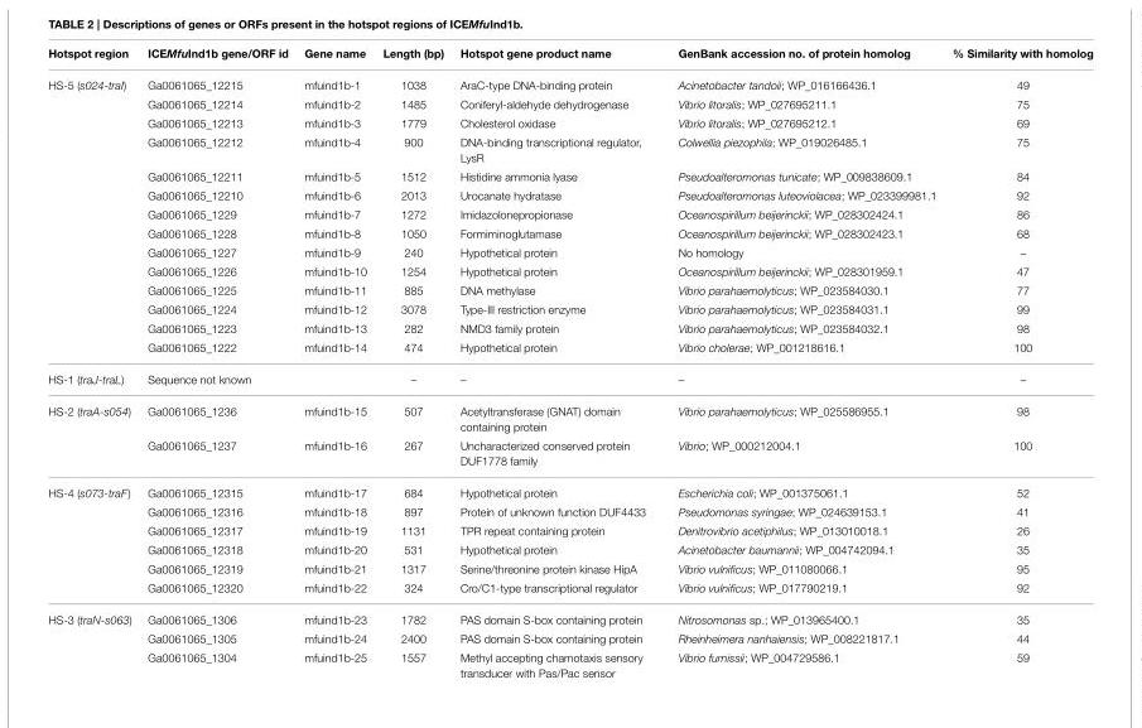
<table><thead><tr><td>Hotspot region</td><td>ICEMfuInd1b gene/ORF id</td><td>Gene name</td><td>Length (bp)</td><td>Hotspot gene product name</td><td>GenBank accession no. of protein homolog</td><td>% Similarity with homolog</td></tr></thead><tbody><tr><td rowspan="14">HS-5 (s024-traI)</td><td>Ga0061065_12215</td><td>mfuind1b-1</td><td>1038</td><td>AraC-type DNA-binding protein</td><td>Acinetobacter tandoii; WP_016166436.1</td><td>49</td></tr><tr><td>Ga0061065_12214</td><td>mfuind1b-2</td><td>1485</td><td>Coniferyl-aldehyde dehydrogenase</td><td>Vibrio litoralis; WP_027695211.1</td><td>75</td></tr><tr><td>Ga0061065_12213</td><td>mfuind1b-3</td><td>1779</td><td>Cholesterol oxidase</td><td>Vibrio litoralis; WP_027695212.1</td><td>69</td></tr><tr><td>Ga0061065_12212</td><td>mfuind1b-4</td><td>900</td><td>DNA-binding transcriptional regulator, LysR</td><td>Colwellia piezophila; WP_019026485.1</td><td>75</td></tr><tr><td>Ga0061065_12211</td><td>mfuind1b-5</td><td>1512</td><td>Histidine ammonia lyase</td><td>Pseudoalteromonas tunicate; WP_009838609.1</td><td>84</td></tr><tr><td>Ga0061065_12210</td><td>mfuind1b-6</td><td>2013</td><td>Urocanate hydratase</td><td>Pseudoalteromonas luteoviolacea; WP_023399981.1</td><td>92</td></tr><tr><td>Ga0061065_1229</td><td>mfuind1b-7</td><td>1272</td><td>Imidazolonepropionase</td><td>Oceanospirillum beijerinckii; WP_028302424.1</td><td>86</td></tr><tr><td>Ga0061065_1228</td><td>mfuind1b-8</td><td>1050</td><td>Formiminoglutamase</td><td>Oceanospirillum beijerinckii; WP_028302423.1</td><td>68</td></tr><tr><td>Ga0061065_1227</td><td>mfuind1b-9</td><td>240</td><td>Hypothetical protein</td><td>No homology</td><td>–</td></tr><tr><td>Ga0061065_1226</td><td>mfuind1b-10</td><td>1254</td><td>Hypothetical protein</td><td>Oceanospirillum beijerinckii; WP_028301959.1</td><td>47</td></tr><tr><td>Ga0061065_1225</td><td>mfuind1b-11</td><td>885</td><td>DNA methylase</td><td>Vibrio parahaemolyticus; WP_023584030.1</td><td>77</td></tr><tr><td>Ga0061065_1224</td><td>mfuind1b-12</td><td>3078</td><td>Type-III restriction enzyme</td><td>Vibrio parahaemolyticus; WP_023584031.1</td><td>99</td></tr><tr><td>Ga0061065_1223</td><td>mfuind1b-13</td><td>282</td><td>NMD3 family protein</td><td>Vibrio parahaemolyticus; WP_023584032.1</td><td>98</td></tr><tr><td>Ga0061065_1222</td><td>mfuind1b-14</td><td>474</td><td>Hypothetical protein</td><td>Vibrio cholerae; WP_001218616.1</td><td>100</td></tr><tr><td>HS-1 (traJ-traL)</td><td>Sequence not known</td><td></td><td>–</td><td>–</td><td>–</td><td>–</td></tr><tr><td rowspan="2">HS-2 (traA-s054)</td><td>Ga0061065_1236</td><td>mfuind1b-15</td><td>507</td><td>Acetyltransferase (GNAT) domain containing protein</td><td>Vibrio parahaemolyticus; WP_025586955.1</td><td>98</td></tr><tr><td>Ga0061065_1237</td><td>mfuind1b-16</td><td>267</td><td>Uncharacterized conserved protein DUF1778 family</td><td>Vibrio; WP_000212004.1</td><td>100</td></tr><tr><td rowspan="6">HS-4 (s073-traF)</td><td>Ga0061065_12315</td><td>mfuind1b-17</td><td>684</td><td>Hypothetical protein</td><td>Escherichia coli; WP_001375061.1</td><td>52</td></tr><tr><td>Ga0061065_12316</td><td>mfuind1b-18</td><td>897</td><td>Protein of unknown function DUF4433</td><td>Pseudomonas syringae; WP_024639153.1</td><td>41</td></tr><tr><td>Ga0061065_12317</td><td>mfuind1b-19</td><td>1131</td><td>TPR repeat containing protein</td><td>Denitrovibrio acetiphilus; WP_013010018.1</td><td>26</td></tr><tr><td>Ga0061065_12318</td><td>mfuind1b-20</td><td>531</td><td>Hypothetical protein</td><td>Acinetobacter baumannii; WP_004742094.1</td><td>35</td></tr><tr><td>Ga0061065_12319</td><td>mfuind1b-21</td><td>1317</td><td>Serine/threonine protein kinase HipA</td><td>Vibrio vulnificus; WP_011080066.1</td><td>95</td></tr><tr><td>Ga0061065_12320</td><td>mfuind1b-22</td><td>324</td><td>Cro/C1-type transcriptional regulator</td><td>Vibrio vulnificus; WP_017790219.1</td><td>92</td></tr><tr><td rowspan="3">HS-3 (traN-s063)</td><td>Ga0061065_1306</td><td>mfuind1b-23</td><td>1782</td><td>PAS domain S-box containing protein</td><td>Nitrosomonas sp.; WP_013965400.1</td><td>35</td></tr><tr><td>Ga0061065_1305</td><td>mfuind1b-24</td><td>2400</td><td>PAS domain S-box containing protein</td><td>Rheinheimera nanhaiensis; WP_008221817.1</td><td>44</td></tr><tr><td>Ga0061065_1304</td><td>mfuind1b-25</td><td>1557</td><td>Methyl accepting chamotaxis sensory transducer with Pas/Pac sensor</td><td>Vibrio furnissii; WP_004729586.1</td><td>59</td></tr></tbody></table>